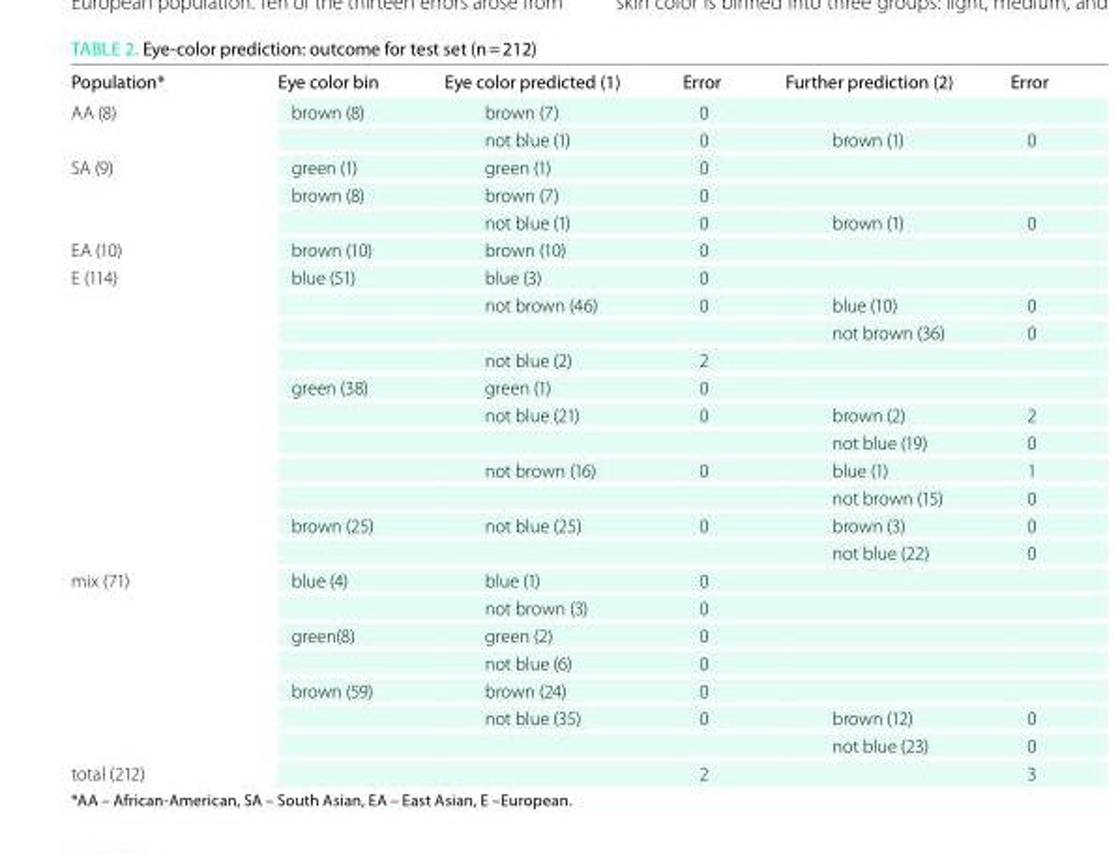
<table><thead><tr><td>Population*</td><td>Eye color bin</td><td>Eye color predicted (1)</td><td>Error</td><td>Further prediction (2)</td><td>Error</td></tr></thead><tbody><tr><td rowspan="2">AA (8)</td><td>brown (8)</td><td>brown (7)</td><td>0</td><td></td><td></td></tr><tr><td></td><td>not blue (1)</td><td>0</td><td>brown (1)</td><td>0</td></tr><tr><td rowspan="3">SA (9)</td><td>green (1)</td><td>green (1)</td><td>0</td><td></td><td></td></tr><tr><td>brown (8)</td><td>brown (7)</td><td>0</td><td></td><td></td></tr><tr><td></td><td>not blue (1)</td><td>0</td><td>brown (1)</td><td>0</td></tr><tr><td>EA (10)</td><td>brown (10)</td><td>brown (10)</td><td>0</td><td></td><td></td></tr><tr><td rowspan="11">E (114)</td><td>blue (51)</td><td>blue (3)</td><td>0</td><td></td><td></td></tr><tr><td></td><td>not brown (46)</td><td>0</td><td>blue (10)</td><td>0</td></tr><tr><td></td><td></td><td></td><td>not brown (36)</td><td>0</td></tr><tr><td></td><td>not blue (2)</td><td>2</td><td></td><td></td></tr><tr><td>green (38)</td><td>green (1)</td><td>0</td><td></td><td></td></tr><tr><td></td><td>not blue (21)</td><td>0</td><td>brown (2)</td><td>2</td></tr><tr><td></td><td></td><td></td><td>not blue (19)</td><td>0</td></tr><tr><td></td><td>not brown (16)</td><td>0</td><td>blue (1)</td><td>1</td></tr><tr><td></td><td></td><td></td><td>not brown (15)</td><td>0</td></tr><tr><td>brown (25)</td><td>not blue (25)</td><td>0</td><td>brown (3)</td><td>0</td></tr><tr><td></td><td></td><td></td><td>not blue (22)</td><td>0</td></tr><tr><td rowspan="7">mix (71)</td><td>blue (4)</td><td>blue (1)</td><td>0</td><td></td><td></td></tr><tr><td></td><td>not brown (3)</td><td>0</td><td></td><td></td></tr><tr><td>green(8)</td><td>green (2)</td><td>0</td><td></td><td></td></tr><tr><td></td><td>not blue (6)</td><td>0</td><td></td><td></td></tr><tr><td>brown (59)</td><td>brown (24)</td><td>0</td><td></td><td></td></tr><tr><td></td><td>not blue (35)</td><td>0</td><td>brown (12)</td><td>0</td></tr><tr><td></td><td></td><td></td><td>not blue (23)</td><td>0</td></tr><tr><td>total (212)</td><td></td><td></td><td>2</td><td></td><td>3</td></tr></tbody></table>